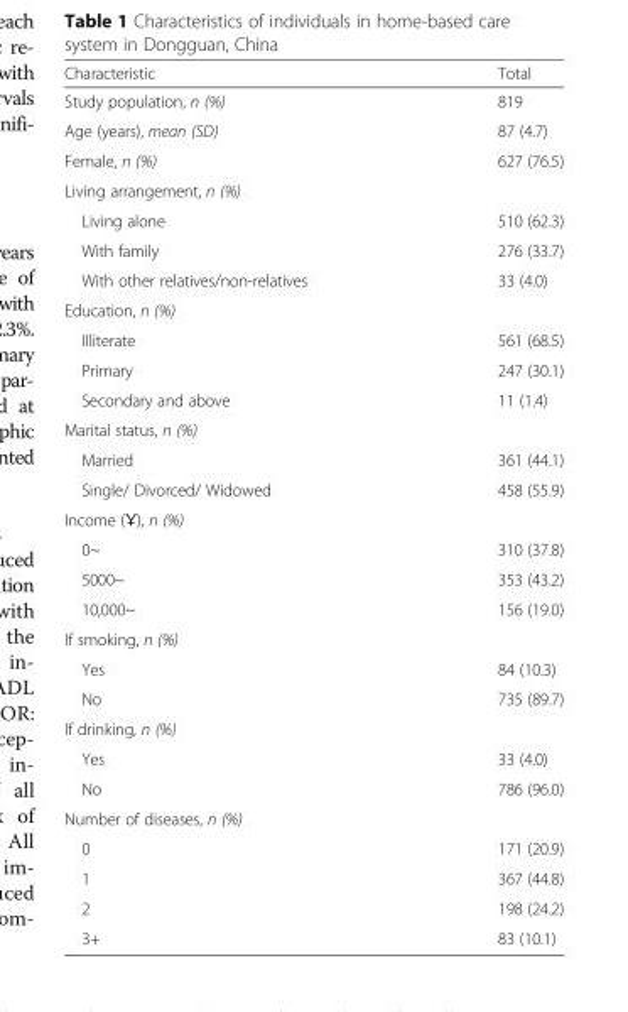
<table><thead><tr><td>Characteristic</td><td>Total</td></tr></thead><tbody><tr><td>Study population, n (%)</td><td>819</td></tr><tr><td>Age (years), mean (SD)</td><td>87 (4.7)</td></tr><tr><td>Female, n (%)</td><td>627 (76.5)</td></tr><tr><td colspan="2">Living arrangement, n (%)</td></tr><tr><td>Living alone</td><td>510 (62.3)</td></tr><tr><td>With family</td><td>276 (33.7)</td></tr><tr><td>With other relatives/non-relatives</td><td>33 (4.0)</td></tr><tr><td colspan="2">Education, n (%)</td></tr><tr><td>Illiterate</td><td>561 (68.5)</td></tr><tr><td>Primary</td><td>247 (30.1)</td></tr><tr><td>Secondary and above</td><td>11 (1.4)</td></tr><tr><td colspan="2">Marital status, n (%)</td></tr><tr><td>Married</td><td>361 (44.1)</td></tr><tr><td>Single/ Divorced/ Widowed</td><td>458 (55.9)</td></tr><tr><td colspan="2">Income (Ұ), n (%)</td></tr><tr><td>0~</td><td>310 (37.8)</td></tr><tr><td>5000~</td><td>353 (43.2)</td></tr><tr><td>10,000~</td><td>156 (19.0)</td></tr><tr><td colspan="2">If smoking, n (%)</td></tr><tr><td>Yes</td><td>84 (10.3)</td></tr><tr><td>No</td><td>735 (89.7)</td></tr><tr><td colspan="2">If drinking, n (%)</td></tr><tr><td>Yes</td><td>33 (4.0)</td></tr><tr><td>No</td><td>786 (96.0)</td></tr><tr><td colspan="2">Number of diseases, n (%)</td></tr><tr><td>0</td><td>171 (20.9)</td></tr><tr><td>1</td><td>367 (44.8)</td></tr><tr><td>2</td><td>198 (24.2)</td></tr><tr><td>3+</td><td>83 (10.1)</td></tr></tbody></table>